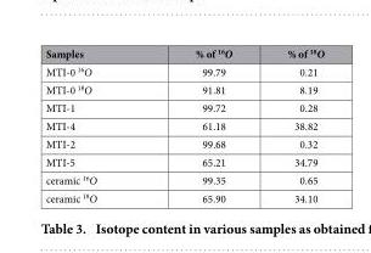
<table><thead><tr><td>Samples</td><td>% of <sup>16</sup>O</td><td>% of <sup>18</sup>O</td></tr></thead><tbody><tr><td>MTI-0 <sup>16</sup>O</td><td>99.79</td><td>0.21</td></tr><tr><td>MTI-0 <sup>18</sup>O</td><td>91.81</td><td>8.19</td></tr><tr><td>MTI-1</td><td>99.72</td><td>0.28</td></tr><tr><td>MTI-4</td><td>61.18</td><td>38.82</td></tr><tr><td>MTI-2</td><td>99.68</td><td>0.32</td></tr><tr><td>MTI-5</td><td>65.21</td><td>34.79</td></tr><tr><td>ceramic <sup>16</sup>O</td><td>99.35</td><td>0.65</td></tr><tr><td>ceramic <sup>18</sup>O</td><td>65.90</td><td>34.10</td></tr></tbody></table>